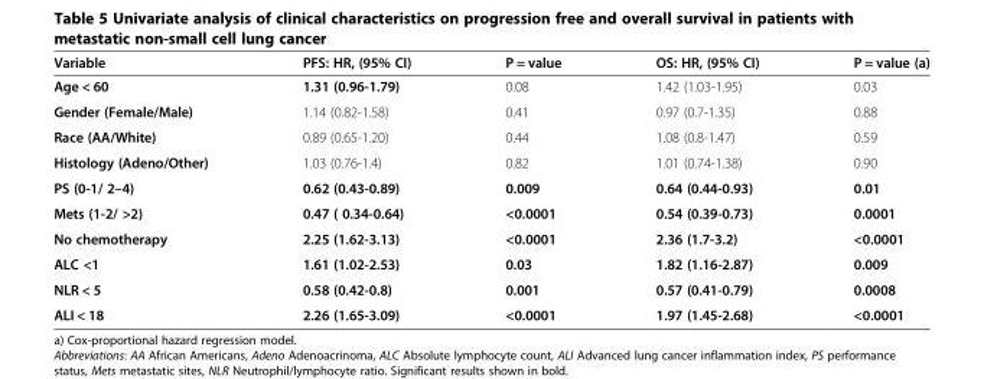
<table><thead><tr><td>Variable</td><td>PFS: HR, (95% CI)</td><td>P = value</td><td>OS: HR, (95% CI)</td><td>P = value (a)</td></tr></thead><tbody><tr><td>Age &lt; 60</td><td>1.31 (0.96-1.79)</td><td>0.08</td><td>1.42 (1.03-1.95)</td><td>0.03</td></tr><tr><td>Gender (Female/Male)</td><td>1.14 (0.82-1.58)</td><td>0.41</td><td>0.97 (0.7-1.35)</td><td>0.88</td></tr><tr><td>Race (AA/White)</td><td>0.89 (0.65-1.20)</td><td>0.44</td><td>1.08 (0.8-1.47)</td><td>0.59</td></tr><tr><td>Histology (Adeno/Other)</td><td>1.03 (0.76-1.4)</td><td>0.82</td><td>1.01 (0.74-1.38)</td><td>0.90</td></tr><tr><td>PS (0-1/ 2–4)</td><td>0.62 (0.43-0.89)</td><td>0.009</td><td>0.64 (0.44-0.93)</td><td>0.01</td></tr><tr><td>Mets (1-2/ &gt;2)</td><td>0.47 ( 0.34-0.64)</td><td>&lt;0.0001</td><td>0.54 (0.39-0.73)</td><td>0.0001</td></tr><tr><td>No chemotherapy</td><td>2.25 (1.62-3.13)</td><td>&lt;0.0001</td><td>2.36 (1.7-3.2)</td><td>&lt;0.0001</td></tr><tr><td>ALC &lt;1</td><td>1.61 (1.02-2.53)</td><td>0.03</td><td>1.82 (1.16-2.87)</td><td>0.009</td></tr><tr><td>NLR &lt; 5</td><td>0.58 (0.42-0.8)</td><td>0.001</td><td>0.57 (0.41-0.79)</td><td>0.0008</td></tr><tr><td>ALI &lt; 18</td><td>2.26 (1.65-3.09)</td><td>&lt;0.0001</td><td>1.97 (1.45-2.68)</td><td>&lt;0.0001</td></tr></tbody></table>